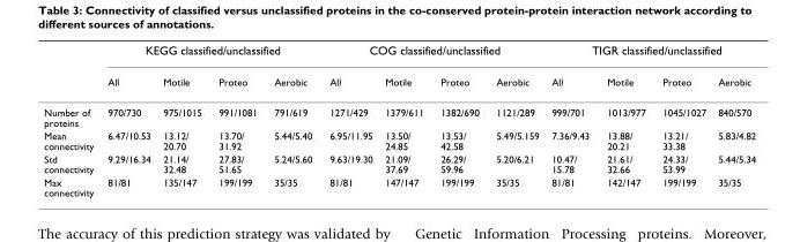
<table><thead><tr><td rowspan="2"></td><td colspan="4">KEGG classified/unclassified</td><td colspan="4">COG classified/unclassified</td><td colspan="4">TIGR classified/unclassified</td></tr><tr><td>All</td><td>Motile</td><td>Proteo</td><td>Aerobic</td><td>All</td><td>Motile</td><td>Proteo</td><td>Aerobic</td><td>All</td><td>Motile</td><td>Proteo</td><td>Aerobic</td></tr></thead><tbody><tr><td>Number of proteins</td><td>970/730</td><td>975/1015</td><td>991/1081</td><td>791/619</td><td>1271/429</td><td>1379/611</td><td>1382/690</td><td>1121/289</td><td>999/701</td><td>1013/977</td><td>1045/1027</td><td>840/570</td></tr><tr><td>Mean connectivity</td><td>6.47/10.53</td><td>13.12/ 20.70</td><td>13.70/ 31.92</td><td>5.44/5.40</td><td>6.95/11.95</td><td>13.50/ 24.85</td><td>13.53/ 42.58</td><td>5.49/5.159</td><td>7.36/9.43</td><td>13.88/ 20.21</td><td>13.21/ 33.38</td><td>5.83/4.82</td></tr><tr><td>Std connectivity</td><td>9.29/16.34</td><td>21.14/ 32.48</td><td>27.83/ 51.65</td><td>5.24/5.60</td><td>9.63/19.30</td><td>21.09/ 37.69</td><td>26.29/ 59.96</td><td>5.20/6.21</td><td>10.47/ 15.78</td><td>21.61/ 32.66</td><td>24.33/ 53.99</td><td>5.44/5.34</td></tr><tr><td>Max connectivity</td><td>81/81</td><td>135/147</td><td>199/199</td><td>35/35</td><td>81/81</td><td>147/147</td><td>199/199</td><td>35/35</td><td>81/81</td><td>142/147</td><td>199/199</td><td>35/35</td></tr></tbody></table>